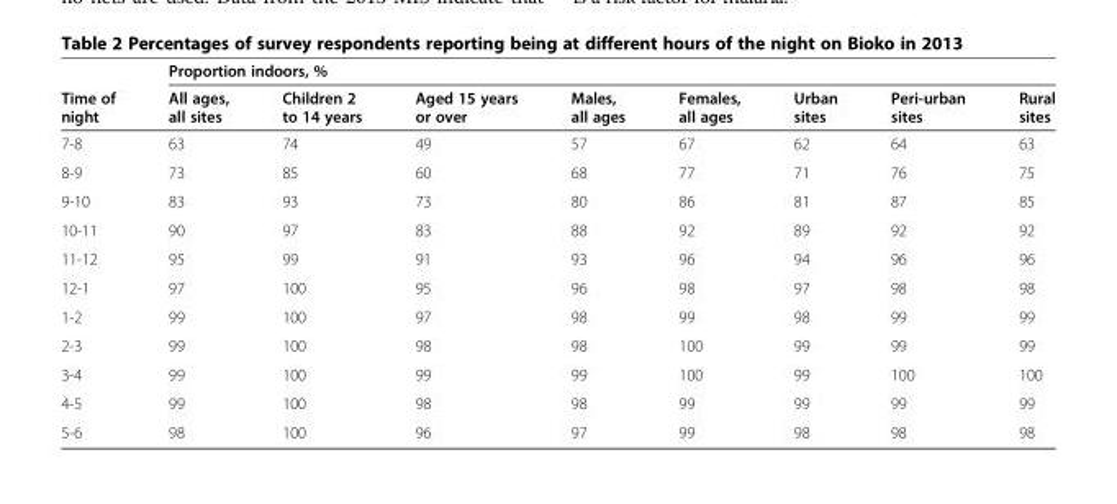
<table><thead><tr><td rowspan="2">Time of night</td><td colspan="8">Proportion indoors, %</td></tr><tr><td>All ages, all sites</td><td>Children 2 to 14 years</td><td>Aged 15 years or over</td><td>Males, all ages</td><td>Females, all ages</td><td>Urban sites</td><td>Peri-urban sites</td><td>Rural sites</td></tr></thead><tbody><tr><td>7-8</td><td>63</td><td>74</td><td>49</td><td>57</td><td>67</td><td>62</td><td>64</td><td>63</td></tr><tr><td>8-9</td><td>73</td><td>85</td><td>60</td><td>68</td><td>77</td><td>71</td><td>76</td><td>75</td></tr><tr><td>9-10</td><td>83</td><td>93</td><td>73</td><td>80</td><td>86</td><td>81</td><td>87</td><td>85</td></tr><tr><td>10-11</td><td>90</td><td>97</td><td>83</td><td>88</td><td>92</td><td>89</td><td>92</td><td>92</td></tr><tr><td>11-12</td><td>95</td><td>99</td><td>91</td><td>93</td><td>96</td><td>94</td><td>96</td><td>96</td></tr><tr><td>12-1</td><td>97</td><td>100</td><td>95</td><td>96</td><td>98</td><td>97</td><td>98</td><td>98</td></tr><tr><td>1-2</td><td>99</td><td>100</td><td>97</td><td>98</td><td>99</td><td>98</td><td>99</td><td>99</td></tr><tr><td>2-3</td><td>99</td><td>100</td><td>98</td><td>98</td><td>100</td><td>99</td><td>99</td><td>99</td></tr><tr><td>3-4</td><td>99</td><td>100</td><td>99</td><td>99</td><td>100</td><td>99</td><td>100</td><td>100</td></tr><tr><td>4-5</td><td>99</td><td>100</td><td>98</td><td>98</td><td>99</td><td>99</td><td>99</td><td>99</td></tr><tr><td>5-6</td><td>98</td><td>100</td><td>96</td><td>97</td><td>99</td><td>98</td><td>98</td><td>98</td></tr></tbody></table>